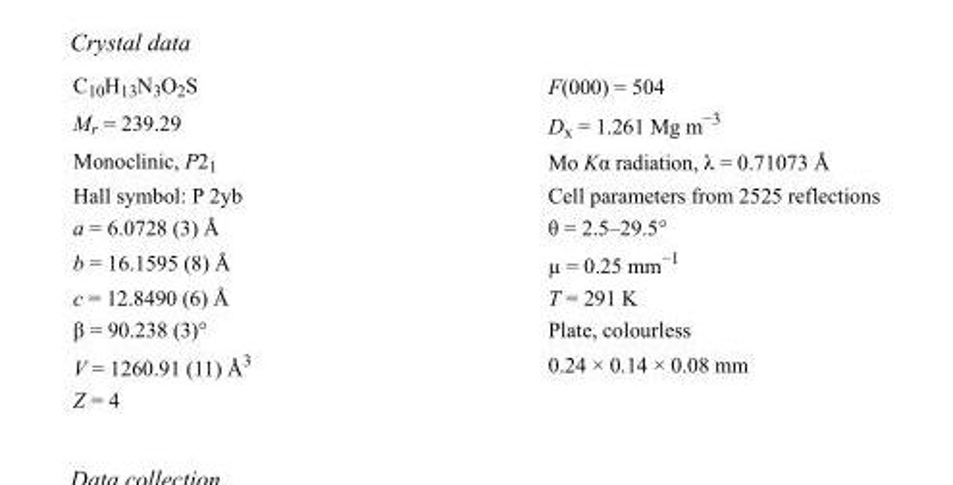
<table><tbody><tr><td>C<sub>10</sub>H<sub>13</sub>N<sub>3</sub>O<sub>2</sub>S</td><td>F(000) = 504</td></tr><tr><td>M<sub>r</sub> = 239.29</td><td>D<sub>x</sub> = 1.261 Mg m<sup>−3</sup></td></tr><tr><td>Monoclinic, P2<sub>1</sub></td><td>Mo Kα radiation, λ = 0.71073 Å</td></tr><tr><td>Hall symbol: P 2yb</td><td>Cell parameters from 2525 reflections</td></tr><tr><td>a = 6.0728 (3) Å</td><td>θ = 2.5–29.5°</td></tr><tr><td>b = 16.1595 (8) Å</td><td>µ = 0.25 mm<sup>−1</sup></td></tr><tr><td>c = 12.8490 (6) Å</td><td>T = 291 K</td></tr><tr><td>β = 90.238 (3)°</td><td>Plate, colourless</td></tr><tr><td>V = 1260.91 (11) Å<sup>3</sup></td><td>0.24 × 0.14 × 0.08 mm</td></tr><tr><td>Z = 4</td><td></td></tr></tbody></table>